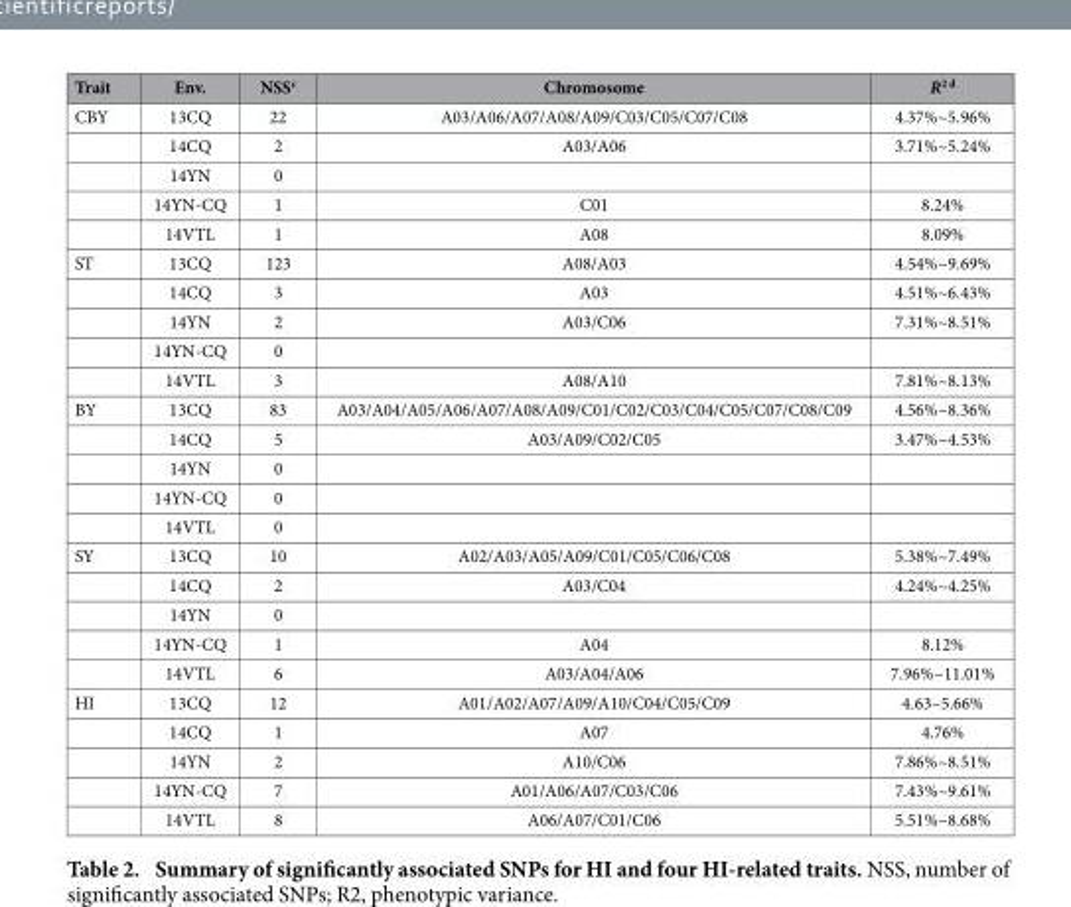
<table><thead><tr><td>Trait</td><td>Env.</td><td>NSS<sup>c</sup></td><td>Chromosome</td><td>R<sup>2 d</sup></td></tr></thead><tbody><tr><td rowspan="5">CBY</td><td>13CQ</td><td>22</td><td>A03/A06/A07/A08/A09/C03/C05/C07/C08</td><td>4.37%~5.96%</td></tr><tr><td>14CQ</td><td>2</td><td>A03/A06</td><td>3.71%~5.24%</td></tr><tr><td>14YN</td><td>0</td><td></td><td></td></tr><tr><td>14YN-CQ</td><td>1</td><td>C01</td><td>8.24%</td></tr><tr><td>14VTL</td><td>1</td><td>A08</td><td>8.09%</td></tr><tr><td rowspan="5">ST</td><td>13CQ</td><td>123</td><td>A08/A03</td><td>4.54%~9.69%</td></tr><tr><td>14CQ</td><td>3</td><td>A03</td><td>4.51%~6.43%</td></tr><tr><td>14YN</td><td>2</td><td>A03/C06</td><td>7.31%~8.51%</td></tr><tr><td>14YN-CQ</td><td>0</td><td></td><td></td></tr><tr><td>14VTL</td><td>3</td><td>A08/A10</td><td>7.81%~8.13%</td></tr><tr><td rowspan="5">BY</td><td>13CQ</td><td>83</td><td>A03/A04/A05/A06/A07/A08/A09/C01/C02/C03/C04/C05/C07/C08/C09</td><td>4.56%~8.36%</td></tr><tr><td>14CQ</td><td>5</td><td>A03/A09/C02/C05</td><td>3.47%~4.53%</td></tr><tr><td>14YN</td><td>0</td><td></td><td></td></tr><tr><td>14YN-CQ</td><td>0</td><td></td><td></td></tr><tr><td>14VTL</td><td>0</td><td></td><td></td></tr><tr><td rowspan="5">SY</td><td>13CQ</td><td>10</td><td>A02/A03/A05/A09/C01/C05/C06/C08</td><td>5.38%~7.49%</td></tr><tr><td>14CQ</td><td>2</td><td>A03/C04</td><td>4.24%~4.25%</td></tr><tr><td>14YN</td><td>0</td><td></td><td></td></tr><tr><td>14YN-CQ</td><td>1</td><td>A04</td><td>8.12%</td></tr><tr><td>14VTL</td><td>6</td><td>A03/A04/A06</td><td>7.96%~11.01%</td></tr><tr><td rowspan="5">HI</td><td>13CQ</td><td>12</td><td>A01/A02/A07/A09/A10/C04/C05/C09</td><td>4.63–5.66%</td></tr><tr><td>14CQ</td><td>1</td><td>A07</td><td>4.76%</td></tr><tr><td>14YN</td><td>2</td><td>A10/C06</td><td>7.86%~8.51%</td></tr><tr><td>14YN-CQ</td><td>7</td><td>A01/A06/A07/C03/C06</td><td>7.43%~9.61%</td></tr><tr><td>14VTL</td><td>8</td><td>A06/A07/C01/C06</td><td>5.51%~8.68%</td></tr></tbody></table>